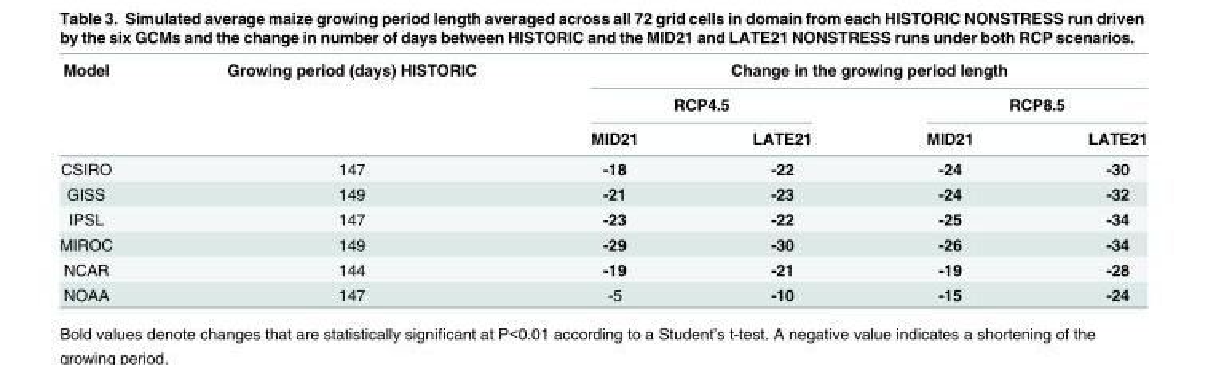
<table><thead><tr><td rowspan="3">Model</td><td rowspan="3">Growing period (days) HISTORIC</td><td colspan="4">Change in the growing period length</td></tr><tr><td colspan="2">RCP4.5</td><td colspan="2">RCP8.5</td></tr><tr><td>MID21</td><td>LATE21</td><td>MID21</td><td>LATE21</td></tr></thead><tbody><tr><td>CSIRO</td><td>147</td><td>-18</td><td>-22</td><td>-24</td><td>-30</td></tr><tr><td>GISS</td><td>149</td><td>-21</td><td>-23</td><td>-24</td><td>-32</td></tr><tr><td>IPSL</td><td>147</td><td>-23</td><td>-22</td><td>-25</td><td>-34</td></tr><tr><td>MIROC</td><td>149</td><td>-29</td><td>-30</td><td>-26</td><td>-34</td></tr><tr><td>NCAR</td><td>144</td><td>-19</td><td>-21</td><td>-19</td><td>-28</td></tr><tr><td>NOAA</td><td>147</td><td>-5</td><td>-10</td><td>-15</td><td>-24</td></tr></tbody></table>